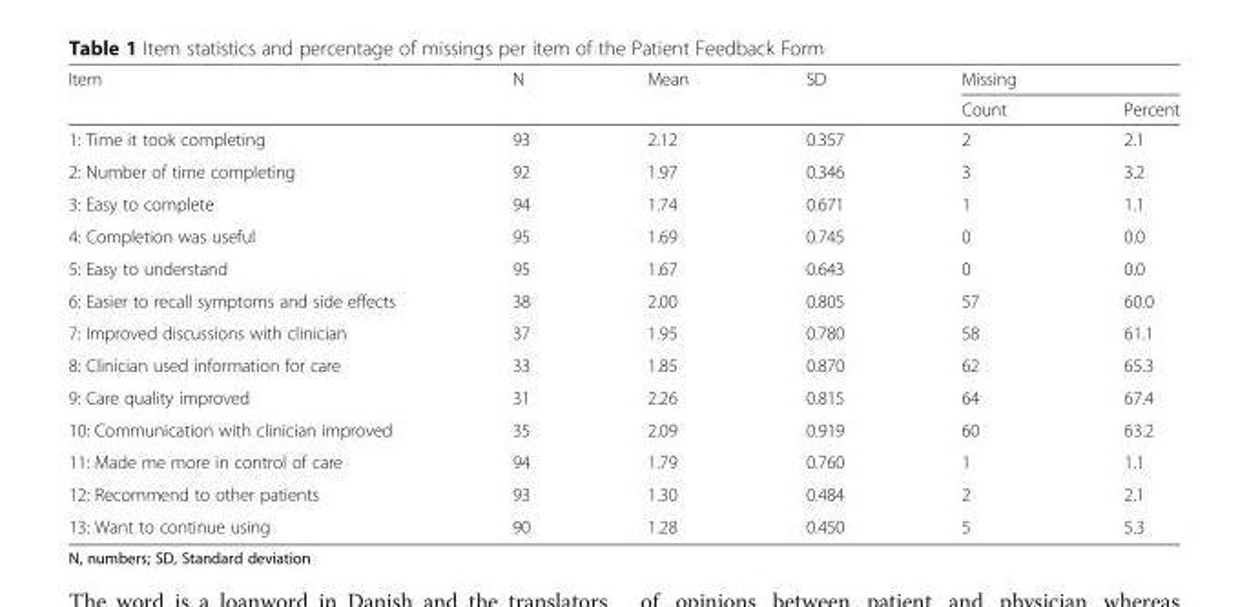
<table><thead><tr><td rowspan="2">Item</td><td rowspan="2">N</td><td rowspan="2">Mean</td><td rowspan="2">SD</td><td colspan="2">Missing</td></tr><tr><td>Count</td><td>Percent</td></tr></thead><tbody><tr><td>1: Time it took completing</td><td>93</td><td>2.12</td><td>0.357</td><td>2</td><td>2.1</td></tr><tr><td>2: Number of time completing</td><td>92</td><td>1.97</td><td>0.346</td><td>3</td><td>3.2</td></tr><tr><td>3: Easy to complete</td><td>94</td><td>1.74</td><td>0.671</td><td>1</td><td>1.1</td></tr><tr><td>4: Completion was useful</td><td>95</td><td>1.69</td><td>0.745</td><td>0</td><td>0.0</td></tr><tr><td>5: Easy to understand</td><td>95</td><td>1.67</td><td>0.643</td><td>0</td><td>0.0</td></tr><tr><td>6: Easier to recall symptoms and side effects</td><td>38</td><td>2.00</td><td>0.805</td><td>57</td><td>60.0</td></tr><tr><td>7: Improved discussions with clinician</td><td>37</td><td>1.95</td><td>0.780</td><td>58</td><td>61.1</td></tr><tr><td>8: Clinician used information for care</td><td>33</td><td>1.85</td><td>0.870</td><td>62</td><td>65.3</td></tr><tr><td>9: Care quality improved</td><td>31</td><td>2.26</td><td>0.815</td><td>64</td><td>67.4</td></tr><tr><td>10: Communication with clinician improved</td><td>35</td><td>2.09</td><td>0.919</td><td>60</td><td>63.2</td></tr><tr><td>11: Made me more in control of care</td><td>94</td><td>1.79</td><td>0.760</td><td>1</td><td>1.1</td></tr><tr><td>12: Recommend to other patients</td><td>93</td><td>1.30</td><td>0.484</td><td>2</td><td>2.1</td></tr><tr><td>13: Want to continue using</td><td>90</td><td>1.28</td><td>0.450</td><td>5</td><td>5.3</td></tr></tbody></table>